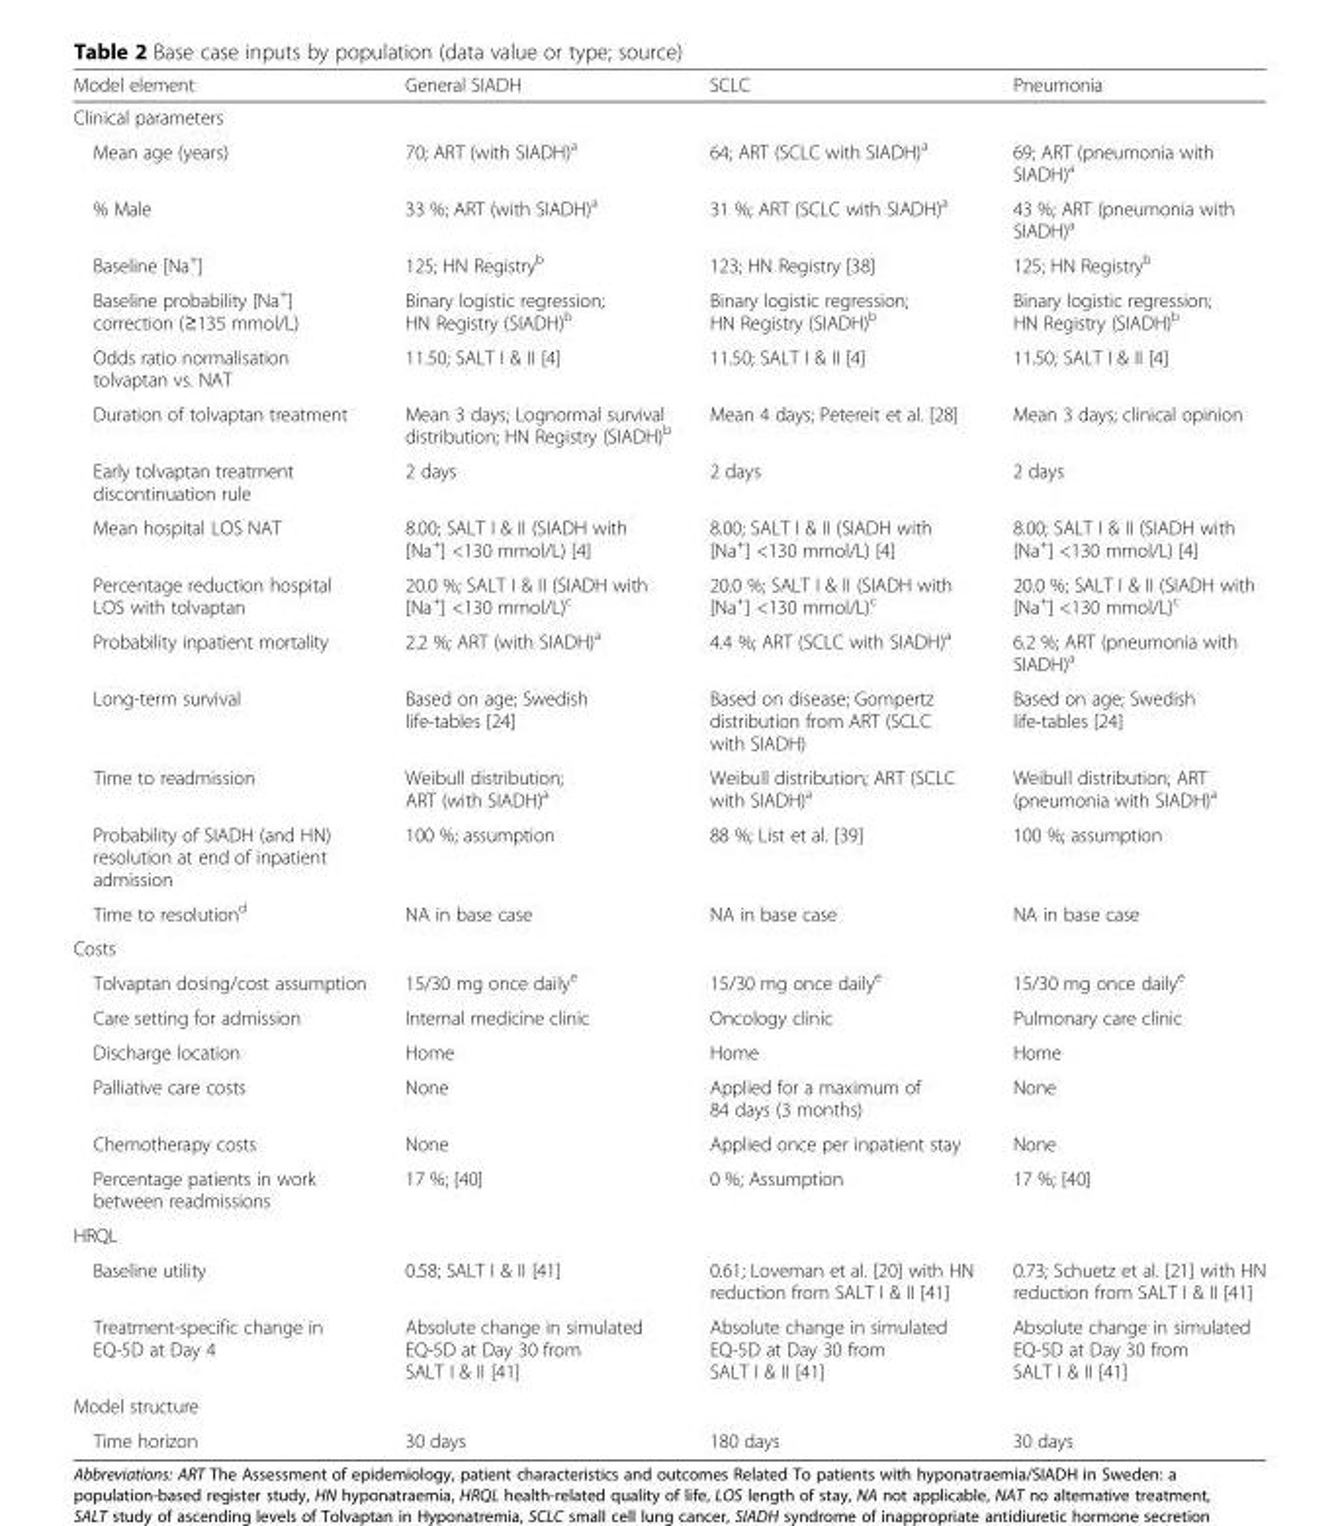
<table><thead><tr><td>Model element</td><td>General SIADH</td><td>SCLC</td><td>Pneumonia</td></tr></thead><tbody><tr><td colspan="4">Clinical parameters</td></tr><tr><td>Mean age (years)</td><td>70; ART (with SIADH)<sup>a</sup></td><td>64; ART (SCLC with SIADH)<sup>a</sup></td><td>69; ART (pneumonia with SIADH)<sup>a</sup></td></tr><tr><td>% Male</td><td>33 %; ART (with SIADH)<sup>a</sup></td><td>31 %; ART (SCLC with SIADH)<sup>a</sup></td><td>43 %; ART (pneumonia with SIADH)<sup>a</sup></td></tr><tr><td>Baseline [Na<sup>+</sup>]</td><td>125; HN Registry<sup>b</sup></td><td>123; HN Registry [38]</td><td>125; HN Registry<sup>b</sup></td></tr><tr><td>Baseline probability [Na<sup>+</sup>] correction (≥135 mmol/L)</td><td>Binary logistic regression; HN Registry (SIADH)<sup>b</sup></td><td>Binary logistic regression; HN Registry (SIADH)<sup>b</sup></td><td>Binary logistic regression; HN Registry (SIADH)<sup>b</sup></td></tr><tr><td>Odds ratio normalisation tolvaptan vs. NAT</td><td>11.50; SALT I &amp; II [4]</td><td>11.50; SALT I &amp; II [4]</td><td>11.50; SALT I &amp; II [4]</td></tr><tr><td>Duration of tolvaptan treatment</td><td>Mean 3 days; Lognormal survival distribution; HN Registry (SIADH)<sup>b</sup></td><td>Mean 4 days; Petereit et al. [28]</td><td>Mean 3 days; clinical opinion</td></tr><tr><td>Early tolvaptan treatment discontinuation rule</td><td>2 days</td><td>2 days</td><td>2 days</td></tr><tr><td>Mean hospital LOS NAT</td><td>8.00; SALT I &amp; II (SIADH with [Na<sup>+</sup>] &lt;130 mmol/L) [4]</td><td>8.00; SALT I &amp; II (SIADH with [Na<sup>+</sup>] &lt;130 mmol/L) [4]</td><td>8.00; SALT I &amp; II (SIADH with [Na<sup>+</sup>] &lt;130 mmol/L) [4]</td></tr><tr><td>Percentage reduction hospital LOS with tolvaptan</td><td>20.0 %; SALT I &amp; II (SIADH with [Na<sup>+</sup>] &lt;130 mmol/L)<sup>c</sup></td><td>20.0 %; SALT I &amp; II (SIADH with [Na<sup>+</sup>] &lt;130 mmol/L)<sup>c</sup></td><td>20.0 %; SALT I &amp; II (SIADH with [Na<sup>+</sup>] &lt;130 mmol/L)<sup>c</sup></td></tr><tr><td>Probability inpatient mortality</td><td>2.2 %; ART (with SIADH)<sup>a</sup></td><td>4.4 %; ART (SCLC with SIADH)<sup>a</sup></td><td>6.2 %; ART (pneumonia with SIADH)<sup>a</sup></td></tr><tr><td>Long-term survival</td><td>Based on age; Swedish life-tables [24]</td><td>Based on disease; Gompertz distribution from ART (SCLC with SIADH)</td><td>Based on age; Swedish life-tables [24]</td></tr><tr><td>Time to readmission</td><td>Weibull distribution; ART (with SIADH)<sup>a</sup></td><td>Weibull distribution; ART (SCLC with SIADH)<sup>a</sup></td><td>Weibull distribution; ART (pneumonia with SIADH)<sup>a</sup></td></tr><tr><td>Probability of SIADH (and HN) resolution at end of inpatient admission</td><td>100 %; assumption</td><td>88 %; List et al. [39]</td><td>100 %; assumption</td></tr><tr><td>Time to resolution<sup>d</sup></td><td>NA in base case</td><td>NA in base case</td><td>NA in base case</td></tr><tr><td colspan="4">Costs</td></tr><tr><td>Tolvaptan dosing/cost assumption</td><td>15/30 mg once daily<sup>e</sup></td><td>15/30 mg once daily<sup>e</sup></td><td>15/30 mg once daily<sup>e</sup></td></tr><tr><td>Care setting for admission</td><td>Internal medicine clinic</td><td>Oncology clinic</td><td>Pulmonary care clinic</td></tr><tr><td>Discharge location</td><td>Home</td><td>Home</td><td>Home</td></tr><tr><td>Palliative care costs</td><td>None</td><td>Applied for a maximum of 84 days (3 months)</td><td>None</td></tr><tr><td>Chemotherapy costs</td><td>None</td><td>Applied once per inpatient stay</td><td>None</td></tr><tr><td>Percentage patients in work between readmissions</td><td>17 %; [40]</td><td>0 %; Assumption</td><td>17 %; [40]</td></tr><tr><td colspan="4">HRQL</td></tr><tr><td>Baseline utility</td><td>0.58; SALT I &amp; II [41]</td><td>0.61; Loveman et al. [20] with HN reduction from SALT I &amp; II [41]</td><td>0.73; Schuetz et al. [21] with HN reduction from SALT I &amp; II [41]</td></tr><tr><td>Treatment-specific change in EQ-5D at Day 4</td><td>Absolute change in simulated EQ-5D at Day 30 from SALT I &amp; II [41]</td><td>Absolute change in simulated EQ-5D at Day 30 from SALT I &amp; II [41]</td><td>Absolute change in simulated EQ-5D at Day 30 from SALT I &amp; II [41]</td></tr><tr><td colspan="4">Model structure</td></tr><tr><td>Time horizon</td><td>30 days</td><td>180 days</td><td>30 days</td></tr></tbody></table>